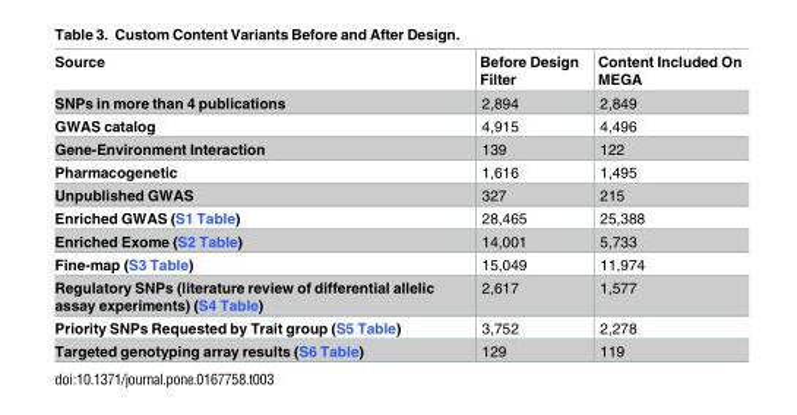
<table><thead><tr><td>Source</td><td>Before Design Filter</td><td>Content Included On MEGA</td></tr></thead><tbody><tr><td>SNPs in more than 4 publications</td><td>2,894</td><td>2,849</td></tr><tr><td>GWAS catalog</td><td>4,915</td><td>4,496</td></tr><tr><td>Gene-Environment Interaction</td><td>139</td><td>122</td></tr><tr><td>Pharmacogenetic</td><td>1,616</td><td>1,495</td></tr><tr><td>Unpublished GWAS</td><td>327</td><td>215</td></tr><tr><td>Enriched GWAS (S1 Table)</td><td>28,465</td><td>25,388</td></tr><tr><td>Enriched Exome (S2 Table)</td><td>14,001</td><td>5,733</td></tr><tr><td>Fine-map (S3 Table)</td><td>15,049</td><td>11,974</td></tr><tr><td>Regulatory SNPs (literature review of differential allelic assay experiments) (S4 Table)</td><td>2,617</td><td>1,577</td></tr><tr><td>Priority SNPs Requested by Trait group (S5 Table)</td><td>3,752</td><td>2,278</td></tr><tr><td>Targeted genotyping array results (S6 Table)</td><td>129</td><td>119</td></tr></tbody></table>